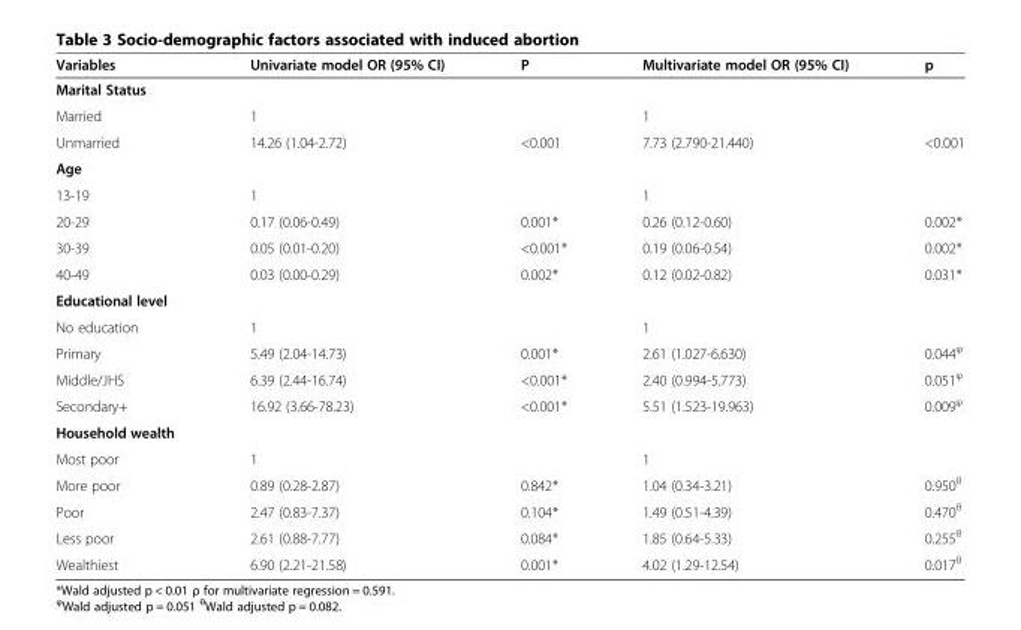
<table><thead><tr><td>Variables</td><td>Univariate model OR (95% CI)</td><td>P</td><td>Multivariate model OR (95% CI)</td><td>p</td></tr></thead><tbody><tr><td colspan="5">Marital Status</td></tr><tr><td>Married</td><td>1</td><td></td><td>1</td><td></td></tr><tr><td>Unmarried</td><td>14.26 (1.04-2.72)</td><td>&lt;0.001</td><td>7.73 (2.790-21.440)</td><td>&lt;0.001</td></tr><tr><td colspan="5">Age</td></tr><tr><td>13-19</td><td>1</td><td></td><td>1</td><td></td></tr><tr><td>20-29</td><td>0.17 (0.06-0.49)</td><td>0.001*</td><td>0.26 (0.12-0.60)</td><td>0.002*</td></tr><tr><td>30-39</td><td>0.05 (0.01-0.20)</td><td>&lt;0.001*</td><td>0.19 (0.06-0.54)</td><td>0.002*</td></tr><tr><td>40-49</td><td>0.03 (0.00-0.29)</td><td>0.002*</td><td>0.12 (0.02-0.82)</td><td>0.031*</td></tr><tr><td colspan="5">Educational level</td></tr><tr><td>No education</td><td>1</td><td></td><td>1</td><td></td></tr><tr><td>Primary</td><td>5.49 (2.04-14.73)</td><td>0.001*</td><td>2.61 (1.027-6.630)</td><td>0.044<sup>φ</sup></td></tr><tr><td>Middle/JHS</td><td>6.39 (2.44-16.74)</td><td>&lt;0.001*</td><td>2.40 (0.994-5.773)</td><td>0.051<sup>φ</sup></td></tr><tr><td>Secondary+</td><td>16.92 (3.66-78.23)</td><td>&lt;0.001*</td><td>5.51 (1.523-19.963)</td><td>0.009<sup>φ</sup></td></tr><tr><td colspan="5">Household wealth</td></tr><tr><td>Most poor</td><td>1</td><td></td><td>1</td><td></td></tr><tr><td>More poor</td><td>0.89 (0.28-2.87)</td><td>0.842*</td><td>1.04 (0.34-3.21)</td><td>0.950<sup>θ</sup></td></tr><tr><td>Poor</td><td>2.47 (0.83-7.37)</td><td>0.104*</td><td>1.49 (0.51-4.39)</td><td>0.470<sup>θ</sup></td></tr><tr><td>Less poor</td><td>2.61 (0.88-7.77)</td><td>0.084*</td><td>1.85 (0.64-5.33)</td><td>0.255<sup>θ</sup></td></tr><tr><td>Wealthiest</td><td>6.90 (2.21-21.58)</td><td>0.001*</td><td>4.02 (1.29-12.54)</td><td>0.017<sup>θ</sup></td></tr></tbody></table>